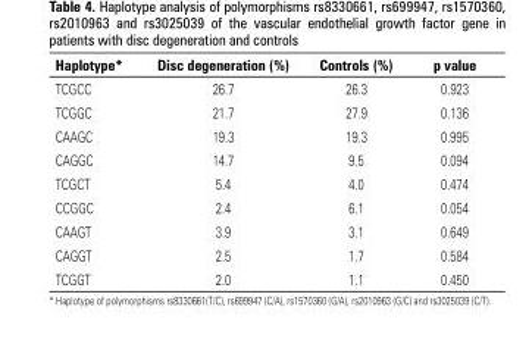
<table><thead><tr><td>Haplotype*</td><td>Disc degeneration (%)</td><td>Controls (%)</td><td>p value</td></tr></thead><tbody><tr><td>TCGCC</td><td>26.7</td><td>26.3</td><td>0.923</td></tr><tr><td>TCGGC</td><td>21.7</td><td>27.9</td><td>0.136</td></tr><tr><td>CAAGC</td><td>19.3</td><td>19.3</td><td>0.995</td></tr><tr><td>CAGGC</td><td>14.7</td><td>9.5</td><td>0.094</td></tr><tr><td>TCGCT</td><td>5.4</td><td>4.0</td><td>0.474</td></tr><tr><td>CCGGC</td><td>2.4</td><td>6.1</td><td>0.054</td></tr><tr><td>CAAGT</td><td>3.9</td><td>3.1</td><td>0.649</td></tr><tr><td>CAGGT</td><td>2.5</td><td>1.7</td><td>0.584</td></tr><tr><td>TCGGT</td><td>2.0</td><td>1.1</td><td>0.450</td></tr></tbody></table>